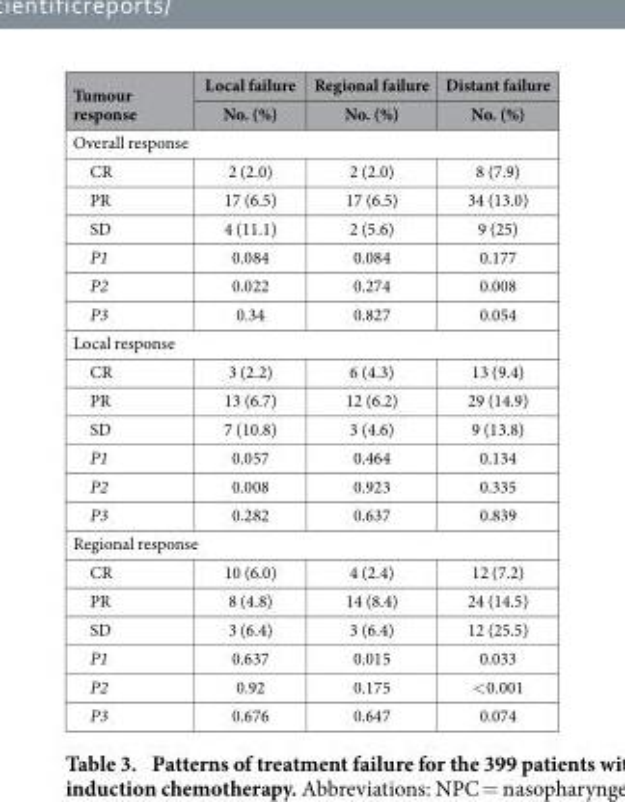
<table><thead><tr><td rowspan="2">Tumour response</td><td rowspan="2">Local failure No. (%)</td><td rowspan="2">Regional failure No. (%)</td><td rowspan="2">Distant failure No. (%)</td></tr><tr></tr></thead><tbody><tr><td colspan="4">Overall response</td></tr><tr><td>CR</td><td>2 (2.0)</td><td>2 (2.0)</td><td>8 (7.9)</td></tr><tr><td>PR</td><td>17 (6.5)</td><td>17 (6.5)</td><td>34 (13.0)</td></tr><tr><td>SD</td><td>4 (11.1)</td><td>2 (5.6)</td><td>9 (25)</td></tr><tr><td>P1</td><td>0.084</td><td>0.084</td><td>0.177</td></tr><tr><td>P2</td><td>0.022</td><td>0.274</td><td>0.008</td></tr><tr><td>P3</td><td>0.34</td><td>0.827</td><td>0.054</td></tr><tr><td colspan="4">Local response</td></tr><tr><td>CR</td><td>3 (2.2)</td><td>6 (4.3)</td><td>13 (9.4)</td></tr><tr><td>PR</td><td>13 (6.7)</td><td>12 (6.2)</td><td>29 (14.9)</td></tr><tr><td>SD</td><td>7 (10.8)</td><td>3 (4.6)</td><td>9 (13.8)</td></tr><tr><td>P1</td><td>0.057</td><td>0.464</td><td>0.134</td></tr><tr><td>P2</td><td>0.008</td><td>0.923</td><td>0.335</td></tr><tr><td>P3</td><td>0.282</td><td>0.637</td><td>0.839</td></tr><tr><td colspan="4">Regional response</td></tr><tr><td>CR</td><td>10 (6.0)</td><td>4 (2.4)</td><td>12 (7.2)</td></tr><tr><td>PR</td><td>8 (4.8)</td><td>14 (8.4)</td><td>24 (14.5)</td></tr><tr><td>SD</td><td>3 (6.4)</td><td>3 (6.4)</td><td>12 (25.5)</td></tr><tr><td>P1</td><td>0.637</td><td>0.015</td><td>0.033</td></tr><tr><td>P2</td><td>0.92</td><td>0.175</td><td>&lt; 0.001</td></tr><tr><td>P3</td><td>0.676</td><td>0.647</td><td>0.074</td></tr></tbody></table>